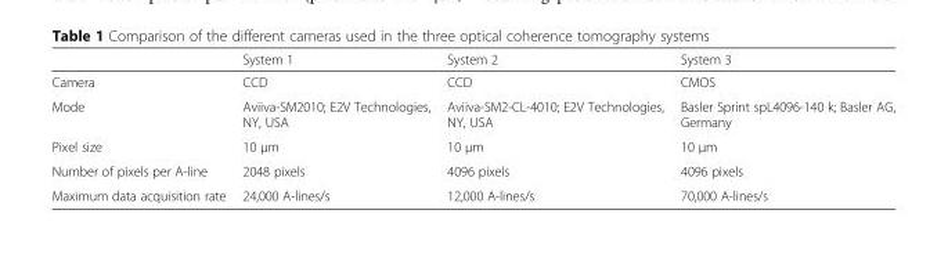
<table><thead><tr><td></td><td>System 1</td><td>System 2</td><td>System 3</td></tr></thead><tbody><tr><td>Camera</td><td>CCD</td><td>CCD</td><td>CMOS</td></tr><tr><td>Mode</td><td>Aviiva-SM2010; E2V Technologies, NY, USA</td><td>Aviiva-SM2-CL-4010; E2V Technologies, NY, USA</td><td>Basler Sprint spL4096-140 k; Basler AG, Germany</td></tr><tr><td>Pixel size</td><td>10 μm</td><td>10 μm</td><td>10 μm</td></tr><tr><td>Number of pixels per A-line</td><td>2048 pixels</td><td>4096 pixels</td><td>4096 pixels</td></tr><tr><td>Maximum data acquisition rate</td><td>24,000 A-lines/s</td><td>12,000 A-lines/s</td><td>70,000 A-lines/s</td></tr></tbody></table>